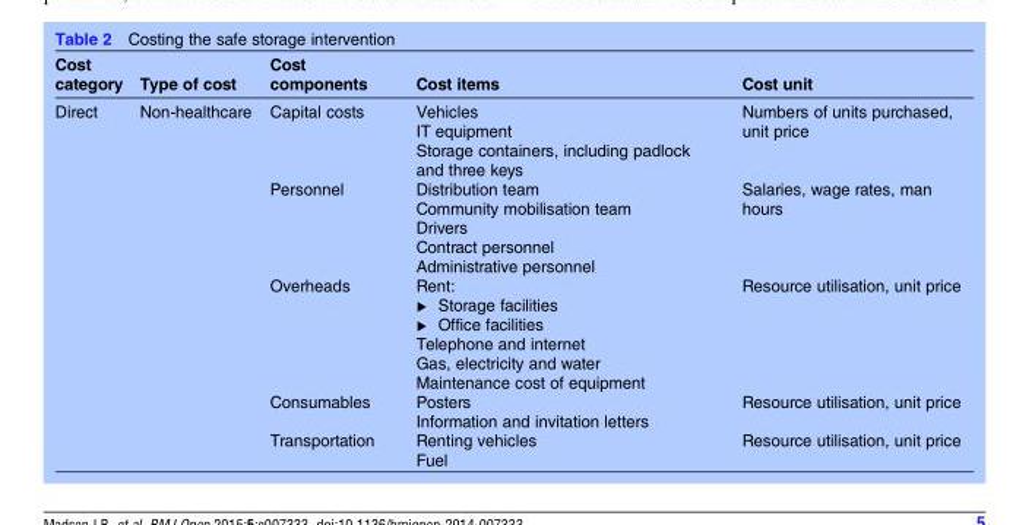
<table><thead><tr><td>Cost category</td><td>Type of cost</td><td>Cost components</td><td>Cost items</td><td>Cost unit</td></tr></thead><tbody><tr><td rowspan="5">Direct</td><td>Non-healthcare</td><td>Capital costs</td><td>Vehicles IT equipment Storage containers, including padlock and three keys</td><td>Numbers of units purchased, unit price</td></tr><tr><td></td><td>Personnel</td><td>Distribution team Community mobilisation team Drivers Contract personnel Administrative personnel</td><td>Salaries, wage rates, man hours</td></tr><tr><td></td><td>Overheads</td><td>Rent: ▸ Storage facilities ▸ Office facilities Telephone and internet Gas, electricity and water Maintenance cost of equipment</td><td>Resource utilisation, unit price</td></tr><tr><td></td><td>Consumables</td><td>Posters Information and invitation letters</td><td>Resource utilisation, unit price</td></tr><tr><td></td><td>Transportation</td><td>Renting vehicles Fuel</td><td>Resource utilisation, unit price</td></tr></tbody></table>